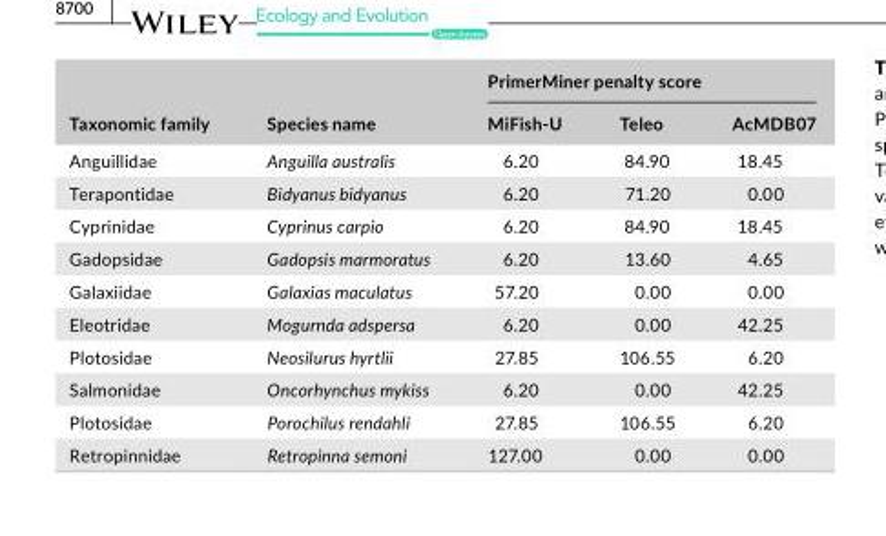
<table><thead><tr><td rowspan="2">Taxonomic family</td><td rowspan="2">Species name</td><td colspan="3">PrimerMiner penalty score</td></tr><tr><td>MiFish- U</td><td>Teleo</td><td>AcMDB07</td></tr></thead><tbody><tr><td>Anguillidae</td><td>Anguilla australis</td><td>6.20</td><td>84.90</td><td>18.45</td></tr><tr><td>Terapontidae</td><td>Bidyanus bidyanus</td><td>6.20</td><td>71.20</td><td>0.00</td></tr><tr><td>Cyprinidae</td><td>Cyprinus carpio</td><td>6.20</td><td>84.90</td><td>18.45</td></tr><tr><td>Gadopsidae</td><td>Gadopsis marmoratus</td><td>6.20</td><td>13.60</td><td>4.65</td></tr><tr><td>Galaxiidae</td><td>Galaxias maculatus</td><td>57.20</td><td>0.00</td><td>0.00</td></tr><tr><td>Eleotridae</td><td>Mogurnda adspersa</td><td>6.20</td><td>0.00</td><td>42.25</td></tr><tr><td>Plotosidae</td><td>Neosilurus hyrtlii</td><td>27.85</td><td>106.55</td><td>6.20</td></tr><tr><td>Salmonidae</td><td>Oncorhynchus mykiss</td><td>6.20</td><td>0.00</td><td>42.25</td></tr><tr><td>Plotosidae</td><td>Porochilus rendahli</td><td>27.85</td><td>106.55</td><td>6.20</td></tr><tr><td>Retropinnidae</td><td>Retropinna semoni</td><td>127.00</td><td>0.00</td><td>0.00</td></tr></tbody></table>